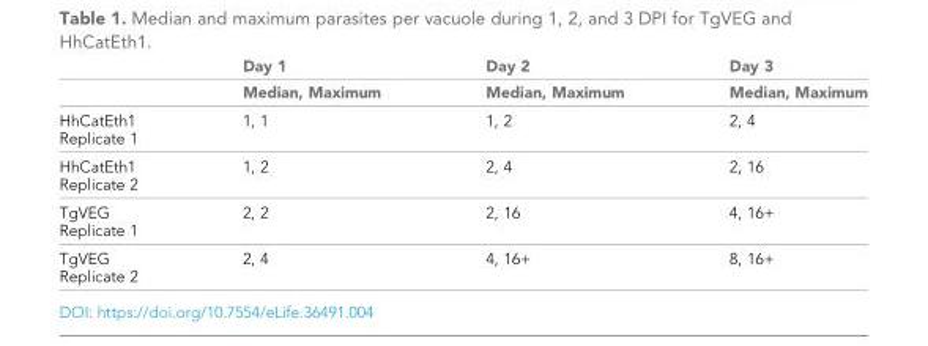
<table><thead><tr><td rowspan="2"></td><td rowspan="2">Day 1 Median, Maximum</td><td rowspan="2">Day 2 Median, Maximum</td><td rowspan="2">Day 3 Median, Maximum</td></tr><tr></tr></thead><tbody><tr><td>HhCatEth1 Replicate 1</td><td>1, 1</td><td>1, 2</td><td>2, 4</td></tr><tr><td>HhCatEth1 Replicate 2</td><td>1, 2</td><td>2, 4</td><td>2, 16</td></tr><tr><td>TgVEG Replicate 1</td><td>2, 2</td><td>2, 16</td><td>4, 16+</td></tr><tr><td>TgVEG Replicate 2</td><td>2, 4</td><td>4, 16+</td><td>8, 16+</td></tr></tbody></table>